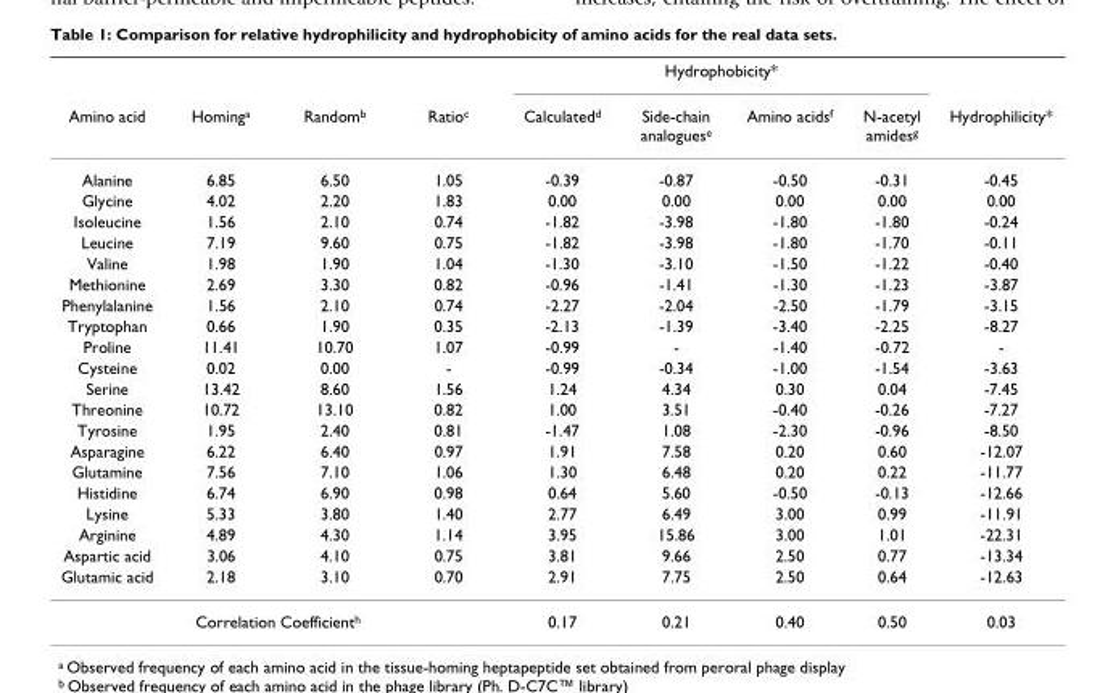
<table><thead><tr><td rowspan="2">Amino acid</td><td rowspan="2">Homing<sup>a</sup></td><td rowspan="2">Random<sup>b</sup></td><td rowspan="2">Ratio<sup>c</sup></td><td colspan="4">Hydrophobicity*</td><td rowspan="2">Hydrophilicity*</td></tr><tr><td>Calculated<sup>d</sup></td><td>Side-chain analogues<sup>e</sup></td><td>Amino acids<sup>f</sup></td><td>N-acetyl amides<sup>g</sup></td></tr></thead><tbody><tr><td>Alanine</td><td>6.85</td><td>6.50</td><td>1.05</td><td>-0.39</td><td>-0.87</td><td>-0.50</td><td>-0.31</td><td>-0.45</td></tr><tr><td>Glycine</td><td>4.02</td><td>2.20</td><td>1.83</td><td>0.00</td><td>0.00</td><td>0.00</td><td>0.00</td><td>0.00</td></tr><tr><td>Isoleucine</td><td>1.56</td><td>2.10</td><td>0.74</td><td>-1.82</td><td>-3.98</td><td>-1.80</td><td>-1.80</td><td>-0.24</td></tr><tr><td>Leucine</td><td>7.19</td><td>9.60</td><td>0.75</td><td>-1.82</td><td>-3.98</td><td>-1.80</td><td>-1.70</td><td>-0.11</td></tr><tr><td>Valine</td><td>1.98</td><td>1.90</td><td>1.04</td><td>-1.30</td><td>-3.10</td><td>-1.50</td><td>-1.22</td><td>-0.40</td></tr><tr><td>Methionine</td><td>2.69</td><td>3.30</td><td>0.82</td><td>-0.96</td><td>-1.41</td><td>-1.30</td><td>-1.23</td><td>-3.87</td></tr><tr><td>Phenylalanine</td><td>1.56</td><td>2.10</td><td>0.74</td><td>-2.27</td><td>-2.04</td><td>-2.50</td><td>-1.79</td><td>-3.15</td></tr><tr><td>Tryptophan</td><td>0.66</td><td>1.90</td><td>0.35</td><td>-2.13</td><td>-1.39</td><td>-3.40</td><td>-2.25</td><td>-8.27</td></tr><tr><td>Proline</td><td>11.41</td><td>10.70</td><td>1.07</td><td>-0.99</td><td>-</td><td>-1.40</td><td>-0.72</td><td>-</td></tr><tr><td>Cysteine</td><td>0.02</td><td>0.00</td><td>-</td><td>-0.99</td><td>-0.34</td><td>-1.00</td><td>-1.54</td><td>-3.63</td></tr><tr><td>Serine</td><td>13.42</td><td>8.60</td><td>1.56</td><td>1.24</td><td>4.34</td><td>0.30</td><td>0.04</td><td>-7.45</td></tr><tr><td>Threonine</td><td>10.72</td><td>13.10</td><td>0.82</td><td>1.00</td><td>3.51</td><td>-0.40</td><td>-0.26</td><td>-7.27</td></tr><tr><td>Tyrosine</td><td>1.95</td><td>2.40</td><td>0.81</td><td>-1.47</td><td>1.08</td><td>-2.30</td><td>-0.96</td><td>-8.50</td></tr><tr><td>Asparagine</td><td>6.22</td><td>6.40</td><td>0.97</td><td>1.91</td><td>7.58</td><td>0.20</td><td>0.60</td><td>-12.07</td></tr><tr><td>Glutamine</td><td>7.56</td><td>7.10</td><td>1.06</td><td>1.30</td><td>6.48</td><td>0.20</td><td>0.22</td><td>-11.77</td></tr><tr><td>Histidine</td><td>6.74</td><td>6.90</td><td>0.98</td><td>0.64</td><td>5.60</td><td>-0.50</td><td>-0.13</td><td>-12.66</td></tr><tr><td>Lysine</td><td>5.33</td><td>3.80</td><td>1.40</td><td>2.77</td><td>6.49</td><td>3.00</td><td>0.99</td><td>-11.91</td></tr><tr><td>Arginine</td><td>4.89</td><td>4.30</td><td>1.14</td><td>3.95</td><td>15.86</td><td>3.00</td><td>1.01</td><td>-22.31</td></tr><tr><td>Aspartic acid</td><td>3.06</td><td>4.10</td><td>0.75</td><td>3.81</td><td>9.66</td><td>2.50</td><td>0.77</td><td>-13.34</td></tr><tr><td>Glutamic acid</td><td>2.18</td><td>3.10</td><td>0.70</td><td>2.91</td><td>7.75</td><td>2.50</td><td>0.64</td><td>-12.63</td></tr><tr><td colspan="4">Correlation Coefficient<sup>h</sup></td><td>0.17</td><td>0.21</td><td>0.40</td><td>0.50</td><td>0.03</td></tr></tbody></table>